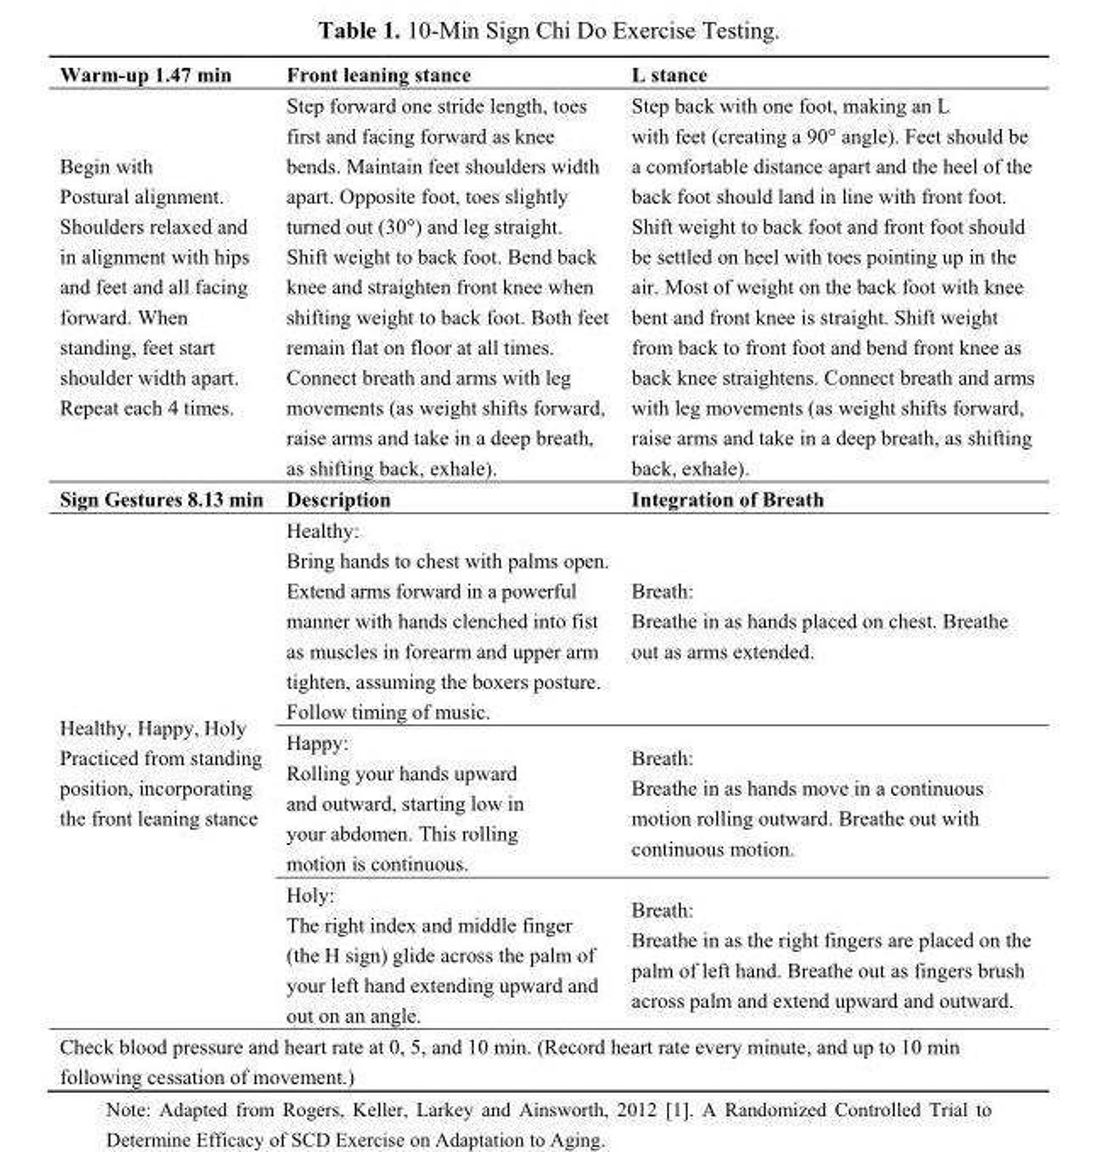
<table><thead><tr><td>Warm-up 1.47 min</td><td>Front leaning stance</td><td>L stance</td></tr></thead><tbody><tr><td>Begin with Postural alignment. Shoulders relaxed and in alignment with hips and feet and all facing forward. When standing, feet start shoulder width apart. Repeat each 4 times.</td><td>Step forward one stride length, toes first and facing forward as knee bends. Maintain feet shoulders width apart. Opposite foot, toes slightly turned out (30°) and leg straight. Shift weight to back foot. Bend back knee and straighten front knee when shifting weight to back foot. Both feet remain flat on floor at all times. Connect breath and arms with leg movements (as weight shifts forward, raise arms and take in a deep breath, as shifting back, exhale).</td><td>Step back with one foot, making an L with feet (creating a 90° angle). Feet should be a comfortable distance apart and the heel of the back foot should land in line with front foot. Shift weight to back foot and front foot should be settled on heel with toes pointing up in the air. Most of weight on the back foot with knee bent and front knee is straight. Shift weight from back to front foot and bend front knee as back knee straightens. Connect breath and arms with leg movements (as weight shifts forward, raise arms and take in a deep breath, as shifting back, exhale).</td></tr><tr><td>Sign Gestures 8.13 min</td><td>Description</td><td>Integration of Breath</td></tr><tr><td rowspan="3">Healthy, Happy, Holy Practiced from standing position, incorporating the front leaning stance</td><td>Healthy: Bring hands to chest with palms open. Extend arms forward in a powerful manner with hands clenched into fist as muscles in forearm and upper arm tighten, assuming the boxers posture. Follow timing of music.</td><td>Breath: Breathe in as hands placed on chest. Breathe out as arms extended.</td></tr><tr><td>Happy: Rolling your hands upward and outward, starting low in your abdomen. This rolling motion is continuous.</td><td>Breath: Breathe in as hands move in a continuous motion rolling outward. Breathe out with continuous motion.</td></tr><tr><td>Holy: The right index and middle finger (the H sign) glide across the palm of your left hand extending upward and out on an angle.</td><td>Breath: Breathe in as the right fingers are placed on the palm of left hand. Breathe out as fingers brush across palm and extend upward and outward.</td></tr><tr><td colspan="3">Check blood pressure and heart rate at 0, 5, and 10 min. (Record heart rate every minute, and up to 10 min following cessation of movement.)</td></tr></tbody></table>